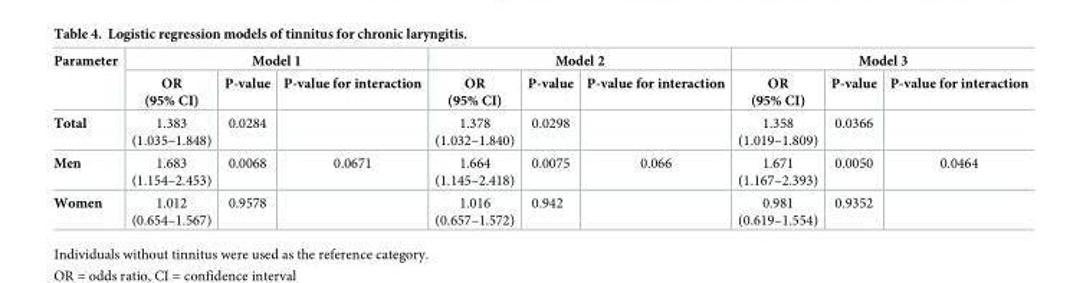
<table><thead><tr><td rowspan="2">Parameter</td><td colspan="3">Model 1</td><td colspan="3">Model 2</td><td colspan="3">Model 3</td></tr><tr><td>OR (95% CI)</td><td>P-value</td><td>P-value for interaction</td><td>OR (95% CI)</td><td>P-value</td><td>P-value for interaction</td><td>OR (95% CI)</td><td>P-value</td><td>P-value for interaction</td></tr></thead><tbody><tr><td>Total</td><td>1.383 (1.035–1.848)</td><td>0.0284</td><td></td><td>1.378 (1.032–1.840)</td><td>0.0298</td><td></td><td>1.358 (1.019–1.809)</td><td>0.0366</td><td></td></tr><tr><td>Men</td><td>1.683 (1.154–2.453)</td><td>0.0068</td><td>0.0671</td><td>1.664 (1.145–2.418)</td><td>0.0075</td><td>0.066</td><td>1.671 (1.167–2.393)</td><td>0.0050</td><td>0.0464</td></tr><tr><td>Women</td><td>1.012 (0.654–1.567)</td><td>0.9578</td><td></td><td>1.016 (0.657–1.572)</td><td>0.942</td><td></td><td>0.981 (0.619–1.554)</td><td>0.9352</td><td></td></tr></tbody></table>